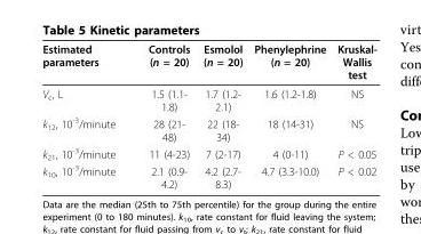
<table><thead><tr><td>Estimated parameters</td><td>Controls (n = 20)</td><td>Esmolol (n = 20)</td><td>Phenylephrine (n = 20)</td><td>Kruskal- Wallis test</td></tr></thead><tbody><tr><td>V<sub>c</sub>, L</td><td>1.5 (1.1- 1.8)</td><td>1.7 (1.2- 2.1)</td><td>1.6 (1.2-1.8)</td><td>NS</td></tr><tr><td>k<sub>12</sub>, 10<sup>-3</sup>/minute</td><td>28 (21- 48)</td><td>22 (18- 34)</td><td>18 (14-31)</td><td>NS</td></tr><tr><td>k<sub>21</sub>, 10<sup>-3</sup>/minute</td><td>11 (4-23)</td><td>7 (2-17)</td><td>4 (0-11)</td><td>P &lt; 0.05</td></tr><tr><td>k<sub>10</sub>, 10<sup>-3</sup>/minute</td><td>2.1 (0.9- 4.2)</td><td>4.2 (2.7- 8.3)</td><td>4.7 (3.3-10.0)</td><td>P &lt; 0.02</td></tr></tbody></table>